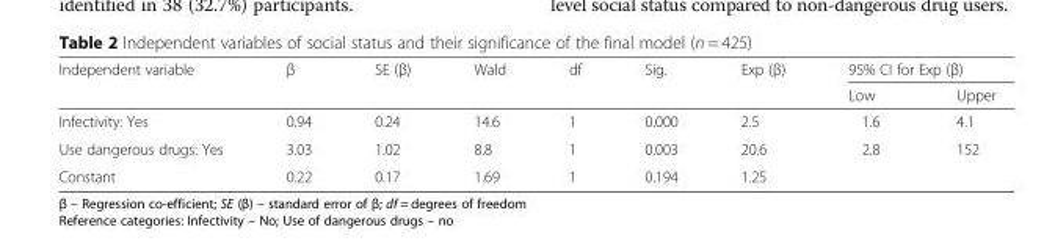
<table><thead><tr><td rowspan="2">Independent variable</td><td rowspan="2">β</td><td rowspan="2">SE (β)</td><td rowspan="2">Wald</td><td rowspan="2">df</td><td rowspan="2">Sig.</td><td rowspan="2">Exp (β)</td><td colspan="2">95% CI for Exp (β)</td></tr><tr><td>Low</td><td>Upper</td></tr></thead><tbody><tr><td>Infectivity: Yes</td><td>0.94</td><td>0.24</td><td>14.6</td><td>1</td><td>0.000</td><td>2.5</td><td>1.6</td><td>4.1</td></tr><tr><td>Use dangerous drugs: Yes</td><td>3.03</td><td>1.02</td><td>8.8</td><td>1</td><td>0.003</td><td>20.6</td><td>2.8</td><td>152</td></tr><tr><td>Constant</td><td>0.22</td><td>0.17</td><td>1.69</td><td>1</td><td>0.194</td><td>1.25</td><td></td><td></td></tr></tbody></table>